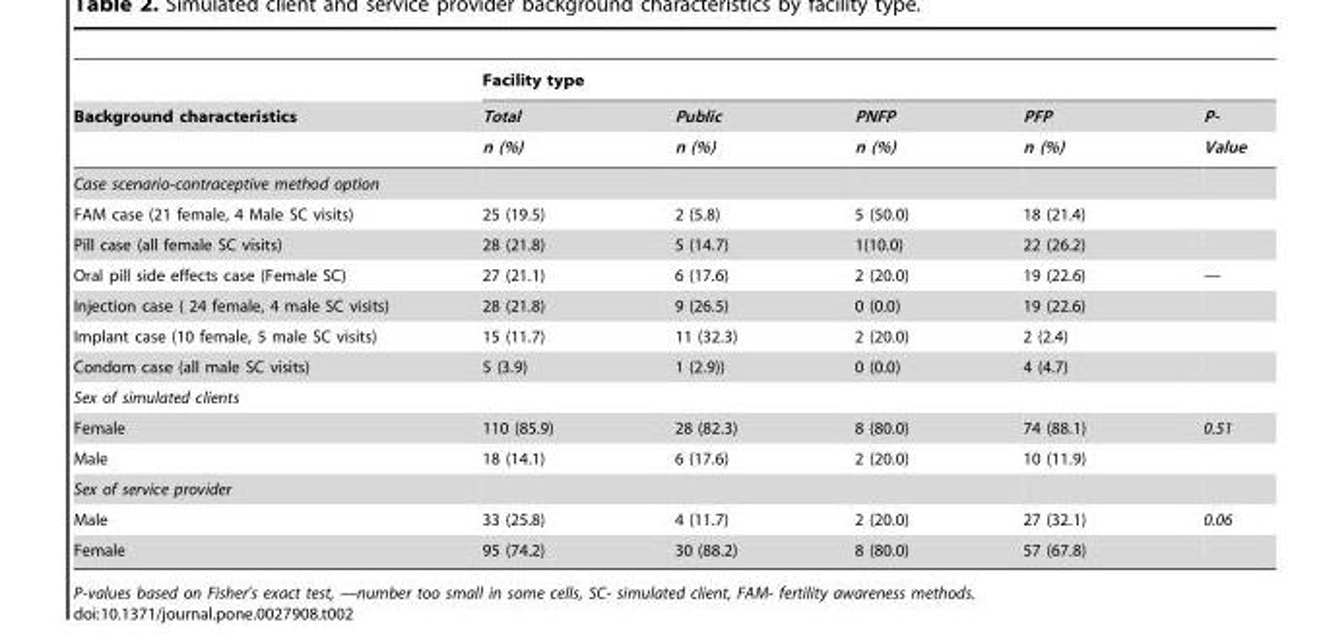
<table><thead><tr><td rowspan="3">Background characteristics</td><td colspan="5">Facility type</td></tr><tr><td rowspan="2">Total n (%)</td><td rowspan="2">Public n (%)</td><td rowspan="2">PNFP n (%)</td><td rowspan="2">PFP n (%)</td><td rowspan="2">P- Value</td></tr><tr></tr></thead><tbody><tr><td colspan="6">Case scenario-contraceptive method option</td></tr><tr><td>FAM case (21 female, 4 Male SC visits)</td><td>25 (19.5)</td><td>2 (5.8)</td><td>5 (50.0)</td><td>18 (21.4)</td><td></td></tr><tr><td>Pill case (all female SC visits)</td><td>28 (21.8)</td><td>5 (14.7)</td><td>1(10.0)</td><td>22 (26.2)</td><td></td></tr><tr><td>Oral pill side effects case (Female SC)</td><td>27 (21.1)</td><td>6 (17.6)</td><td>2 (20.0)</td><td>19 (22.6)</td><td>—</td></tr><tr><td>Injection case ( 24 female, 4 male SC visits)</td><td>28 (21.8)</td><td>9 (26.5)</td><td>0 (0.0)</td><td>19 (22.6)</td><td></td></tr><tr><td>Implant case (10 female, 5 male SC visits)</td><td>15 (11.7)</td><td>11 (32.3)</td><td>2 (20.0)</td><td>2 (2.4)</td><td></td></tr><tr><td>Condom case (all male SC visits)</td><td>5 (3.9)</td><td>1 (2.9))</td><td>0 (0.0)</td><td>4 (4.7)</td><td></td></tr><tr><td colspan="6">Sex of simulated clients</td></tr><tr><td>Female</td><td>110 (85.9)</td><td>28 (82.3)</td><td>8 (80.0)</td><td>74 (88.1)</td><td>0.51</td></tr><tr><td>Male</td><td>18 (14.1)</td><td>6 (17.6)</td><td>2 (20.0)</td><td>10 (11.9)</td><td></td></tr><tr><td colspan="6">Sex of service provider</td></tr><tr><td>Male</td><td>33 (25.8)</td><td>4 (11.7)</td><td>2 (20.0)</td><td>27 (32.1)</td><td>0.06</td></tr><tr><td>Female</td><td>95 (74.2)</td><td>30 (88.2)</td><td>8 (80.0)</td><td>57 (67.8)</td><td></td></tr></tbody></table>